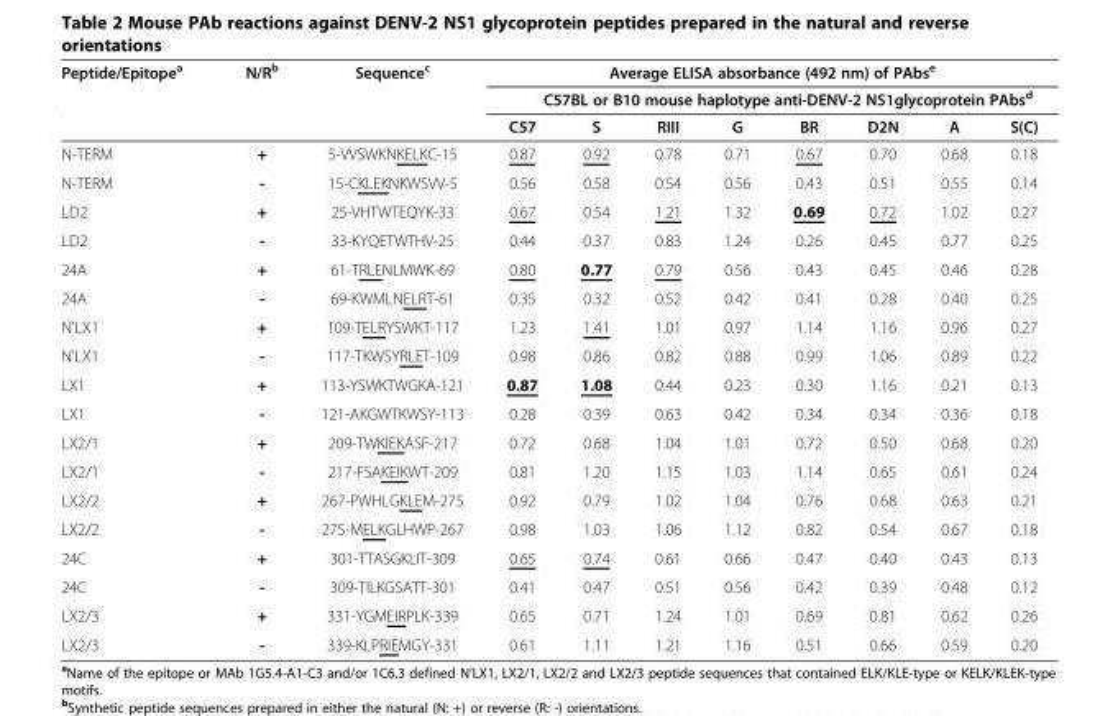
<table><thead><tr><td rowspan="2">Peptide/Epitope<sup>a</sup></td><td rowspan="2">N/R<sup>b</sup></td><td rowspan="2">Sequence<sup>c</sup></td><td rowspan="2" colspan="8">Average ELISA absorbance (492 nm) of PAbs<sup>e</sup> C57BL or B10 mouse haplotype anti-DENV-2 NS1glycoprotein PAbs<sup>d</sup></td></tr><tr></tr><tr><td colspan="4">C57</td><td rowspan="2">S 0.92</td><td rowspan="2">RIII 0.78</td><td rowspan="2">G 0.71</td><td rowspan="2">BR 0.67</td><td rowspan="2">D2N 0.70</td><td rowspan="2">A 0.68</td><td rowspan="2">S(C) 0.18</td></tr><tr><td>N-TERM</td><td>+</td><td>5-VVSWKNKELKC-15</td><td>0.87</td></tr></thead><tbody><tr><td>N-TERM</td><td>-</td><td>15-CKLEKNKWSVV-5</td><td>0.56</td><td>0.58</td><td>0.54</td><td>0.56</td><td>0.43</td><td>0.51</td><td>0.55</td><td>0.14</td></tr><tr><td>LD2</td><td>+</td><td>25-VHTWTEQYK-33</td><td>0.67</td><td>0.54</td><td>1.21</td><td>1.32</td><td>0.69</td><td>0.72</td><td>1.02</td><td>0.27</td></tr><tr><td>LD2</td><td>-</td><td>33-KYQETWTHV-25</td><td>0.44</td><td>0.37</td><td>0.83</td><td>1.24</td><td>0.26</td><td>0.45</td><td>0.77</td><td>0.25</td></tr><tr><td>24A</td><td>+</td><td>61-TRLENLMWK-69</td><td>0.80</td><td>0.77</td><td>0.79</td><td>0.56</td><td>0.43</td><td>0.45</td><td>0.46</td><td>0.28</td></tr><tr><td>24A</td><td>-</td><td>69-KWMLNELRT-61</td><td>0.35</td><td>0.32</td><td>0.52</td><td>0.42</td><td>0.41</td><td>0.28</td><td>0.40</td><td>0.25</td></tr><tr><td>N&#x27;LX1</td><td>+</td><td>109-TELRYSWKT-117</td><td>1.23</td><td>1.41</td><td>1.01</td><td>0.97</td><td>1.14</td><td>1.16</td><td>0.96</td><td>0.27</td></tr><tr><td>N&#x27;LX1</td><td>-</td><td>117-TKWSYRLET-109</td><td>0.98</td><td>0.86</td><td>0.82</td><td>0.88</td><td>0.99</td><td>1.06</td><td>0.89</td><td>0.22</td></tr><tr><td>LX1</td><td>+</td><td>113-YSWKTWGKA-121</td><td>0.87</td><td>1.08</td><td>0.44</td><td>0.23</td><td>0.30</td><td>1.16</td><td>0.21</td><td>0.13</td></tr><tr><td>LX1</td><td>-</td><td>121-AKGWTKWSY-113</td><td>0.28</td><td>0.39</td><td>0.63</td><td>0.42</td><td>0.34</td><td>0.34</td><td>0.36</td><td>0.18</td></tr><tr><td>LX2/1</td><td>+</td><td>209-TWKIEKASF-217</td><td>0.72</td><td>0.68</td><td>1.04</td><td>1.01</td><td>0.72</td><td>0.50</td><td>0.68</td><td>0.20</td></tr><tr><td>LX2/1</td><td>-</td><td>217-FSAKEIKWT-209</td><td>0.81</td><td>1.20</td><td>1.15</td><td>1.03</td><td>1.14</td><td>0.65</td><td>0.61</td><td>0.24</td></tr><tr><td>LX2/2</td><td>+</td><td>267-PWHLGKLEM-275</td><td>0.92</td><td>0.79</td><td>1.02</td><td>1.04</td><td>0.76</td><td>0.68</td><td>0.63</td><td>0.21</td></tr><tr><td>LX2/2</td><td>-</td><td>275-MELKGLHWP-267</td><td>0.98</td><td>1.03</td><td>1.06</td><td>1.12</td><td>0.82</td><td>0.54</td><td>0.67</td><td>0.18</td></tr><tr><td>24C</td><td>+</td><td>301-TTASGKLIT-309</td><td>0.65</td><td>0.74</td><td>0.61</td><td>0.66</td><td>0.47</td><td>0.40</td><td>0.43</td><td>0.13</td></tr><tr><td>24C</td><td>-</td><td>309-TILKGSATT-301</td><td>0.41</td><td>0.47</td><td>0.51</td><td>0.56</td><td>0.42</td><td>0.39</td><td>0.48</td><td>0.12</td></tr><tr><td>LX2/3</td><td>+</td><td>331-YGMEIRPLK-339</td><td>0.65</td><td>0.71</td><td>1.24</td><td>1.01</td><td>0.69</td><td>0.81</td><td>0.62</td><td>0.26</td></tr><tr><td>LX2/3</td><td>-</td><td>339-KLPRIEMGY-331</td><td>0.61</td><td>1.11</td><td>1.21</td><td>1.16</td><td>0.51</td><td>0.66</td><td>0.59</td><td>0.20</td></tr></tbody></table>